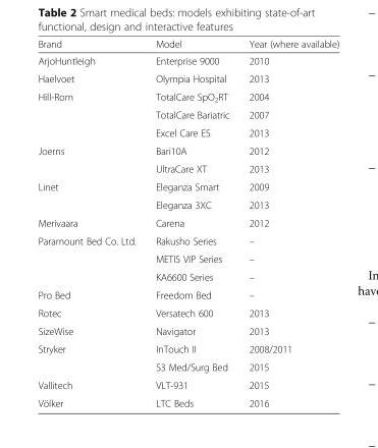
<table><thead><tr><td>Brand</td><td>Model</td><td>Year (where available)</td></tr></thead><tbody><tr><td>ArjoHuntleigh</td><td>Enterprise 9000</td><td>2010</td></tr><tr><td>Haelvoet</td><td>Olympia Hospital</td><td>2013</td></tr><tr><td rowspan="3">Hill-Rom</td><td>TotalCare SpO<sub>2</sub>RT</td><td>2004</td></tr><tr><td>TotalCare Bariatric</td><td>2007</td></tr><tr><td>Excel Care ES</td><td>2013</td></tr><tr><td rowspan="2">Joerns</td><td>Bari10A</td><td>2012</td></tr><tr><td>UltraCare XT</td><td>2013</td></tr><tr><td rowspan="2">Linet</td><td>Eleganza Smart</td><td>2009</td></tr><tr><td>Eleganza 3XC</td><td>2013</td></tr><tr><td>Merivaara</td><td>Carena</td><td>2012</td></tr><tr><td rowspan="3">Paramount Bed Co. Ltd.</td><td>Rakusho Series</td><td>–</td></tr><tr><td>METIS VIP Series</td><td>–</td></tr><tr><td>KA6600 Series</td><td>–</td></tr><tr><td>Pro Bed</td><td>Freedom Bed</td><td>–</td></tr><tr><td>Rotec</td><td>Versatech 600</td><td>2013</td></tr><tr><td>SizeWise</td><td>Navigator</td><td>2013</td></tr><tr><td rowspan="2">Stryker</td><td>InTouch II</td><td>2008/2011</td></tr><tr><td>S3 Med/Surg Bed</td><td>2015</td></tr><tr><td>Vallitech</td><td>VLT-931</td><td>2015</td></tr><tr><td>Völker</td><td>LTC Beds</td><td>2016</td></tr></tbody></table>